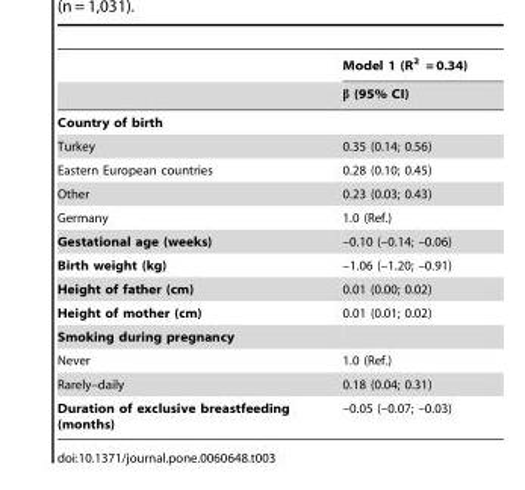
<table><thead><tr><td rowspan="2"></td><td rowspan="2">Model 1 (R<sup>2</sup> = 0.34) β (95% CI)</td></tr><tr></tr></thead><tbody><tr><td colspan="2">Country of birth</td></tr><tr><td>Turkey</td><td>0.35 (0.14; 0.56)</td></tr><tr><td>Eastern European countries</td><td>0.28 (0.10; 0.45)</td></tr><tr><td>Other</td><td>0.23 (0.03; 0.43)</td></tr><tr><td>Germany</td><td>1.0 (Ref.)</td></tr><tr><td>Gestational age (weeks)</td><td>–0.10 (–0.14; –0.06)</td></tr><tr><td>Birth weight (kg)</td><td>–1.06 (–1.20; –0.91)</td></tr><tr><td>Height of father (cm)</td><td>0.01 (0.00; 0.02)</td></tr><tr><td>Height of mother (cm)</td><td>0.01 (0.01; 0.02)</td></tr><tr><td colspan="2">Smoking during pregnancy</td></tr><tr><td>Never</td><td>1.0 (Ref.)</td></tr><tr><td>Rarely–daily</td><td>0.18 (0.04; 0.31)</td></tr><tr><td>Duration of exclusive breastfeeding (months)</td><td>–0.05 (–0.07; –0.03)</td></tr></tbody></table>